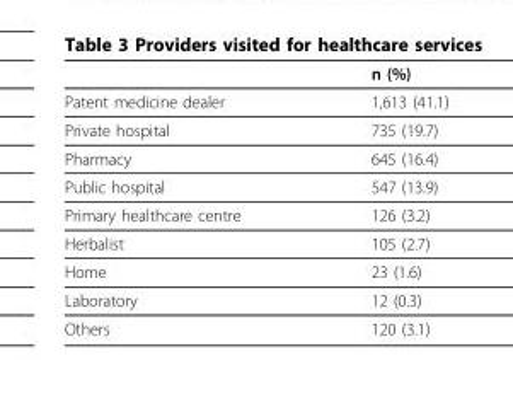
<table><thead><tr><td></td><td>n (%)</td></tr></thead><tbody><tr><td>Patent medicine dealer</td><td>1,613 (41.1)</td></tr><tr><td>Private hospital</td><td>735 (19.7)</td></tr><tr><td>Pharmacy</td><td>645 (16.4)</td></tr><tr><td>Public hospital</td><td>547 (13.9)</td></tr><tr><td>Primary healthcare centre</td><td>126 (3.2)</td></tr><tr><td>Herbalist</td><td>105 (2.7)</td></tr><tr><td>Home</td><td>23 (1.6)</td></tr><tr><td>Laboratory</td><td>12 (0.3)</td></tr><tr><td>Others</td><td>120 (3.1)</td></tr></tbody></table>